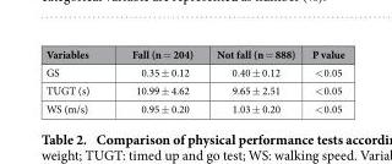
<table><thead><tr><td>Variables</td><td>Fall (n = 204)</td><td>Not fall (n = 888)</td><td>P value</td></tr></thead><tbody><tr><td>GS</td><td>0.35 ± 0.12</td><td>0.40 ± 0.12</td><td>&lt; 0.05</td></tr><tr><td>TUGT (s)</td><td>10.99 ± 4.62</td><td>9.65 ± 2.51</td><td>&lt; 0.05</td></tr><tr><td>WS (m/s)</td><td>0.95 ± 0.20</td><td>1.03 ± 0.20</td><td>&lt; 0.05</td></tr></tbody></table>